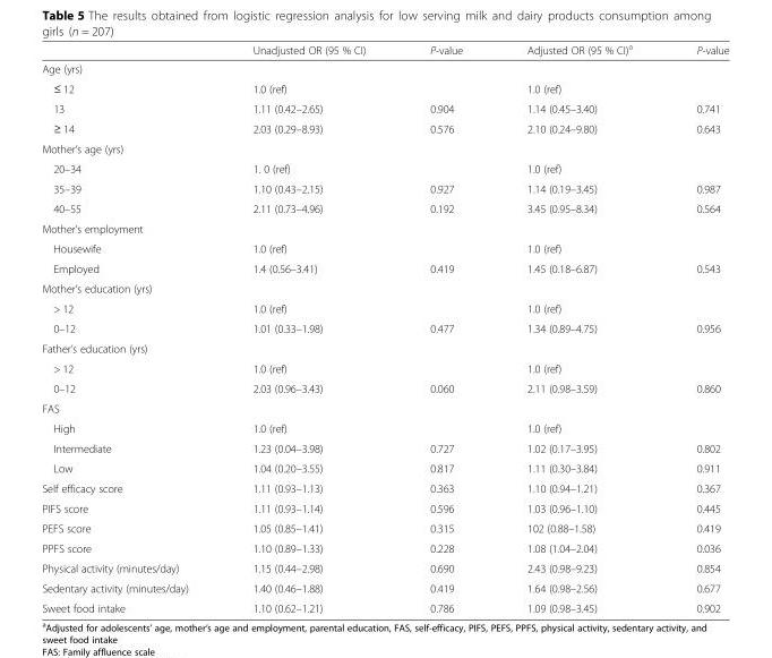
<table><thead><tr><td></td><td>Unadjusted OR (95 % CI)</td><td>P-value</td><td>Adjusted OR (95 % CI)<sup>a</sup></td><td>P-value</td></tr></thead><tbody><tr><td colspan="5">Age (yrs)</td></tr><tr><td>≤ 12</td><td>1.0 (ref)</td><td></td><td>1.0 (ref)</td><td></td></tr><tr><td>13</td><td>1.11 (0.42–2.65)</td><td>0.904</td><td>1.14 (0.45–3.40)</td><td>0.741</td></tr><tr><td>≥ 14</td><td>2.03 (0.29–8.93)</td><td>0.576</td><td>2.10 (0.24–9.80)</td><td>0.643</td></tr><tr><td colspan="5">Mother’s age (yrs)</td></tr><tr><td>20–34</td><td>1. 0 (ref)</td><td></td><td>1.0 (ref)</td><td></td></tr><tr><td>35–39</td><td>1.10 (0.43–2.15)</td><td>0.927</td><td>1.14 (0.19–3.45)</td><td>0.987</td></tr><tr><td>40–55</td><td>2.11 (0.73–4.96)</td><td>0.192</td><td>3.45 (0.95–8.34)</td><td>0.564</td></tr><tr><td colspan="5">Mother’s employment</td></tr><tr><td>Housewife</td><td>1.0 (ref)</td><td></td><td>1.0 (ref)</td><td></td></tr><tr><td>Employed</td><td>1.4 (0.56–3.41)</td><td>0.419</td><td>1.45 (0.18–6.87)</td><td>0.543</td></tr><tr><td colspan="5">Mother’s education (yrs)</td></tr><tr><td>&gt; 12</td><td>1.0 (ref)</td><td></td><td>1.0 (ref)</td><td></td></tr><tr><td>0–12</td><td>1.01 (0.33–1.98)</td><td>0.477</td><td>1.34 (0.89–4.75)</td><td>0.956</td></tr><tr><td colspan="5">Father’s education (yrs)</td></tr><tr><td>&gt; 12</td><td>1.0 (ref)</td><td></td><td>1.0 (ref)</td><td></td></tr><tr><td>0–12</td><td>2.03 (0.96–3.43)</td><td>0.060</td><td>2.11 (0.98–3.59)</td><td>0.860</td></tr><tr><td colspan="5">FAS</td></tr><tr><td>High</td><td>1.0 (ref)</td><td></td><td>1.0 (ref)</td><td></td></tr><tr><td>Intermediate</td><td>1.23 (0.04–3.98)</td><td>0.727</td><td>1.02 (0.17–3.95)</td><td>0.802</td></tr><tr><td>Low</td><td>1.04 (0.20–3.55)</td><td>0.817</td><td>1.11 (0.30–3.84)</td><td>0.911</td></tr><tr><td>Self efficacy score</td><td>1.11 (0.93–1.13)</td><td>0.363</td><td>1.10 (0.94–1.21)</td><td>0.367</td></tr><tr><td>PIFS score</td><td>1.11 (0.93–1.14)</td><td>0.596</td><td>1.03 (0.96–1.10)</td><td>0.445</td></tr><tr><td>PEFS score</td><td>1.05 (0.85–1.41)</td><td>0.315</td><td>102 (0.88–1.58)</td><td>0.419</td></tr><tr><td>PPFS score</td><td>1.10 (0.89–1.33)</td><td>0.228</td><td>1.08 (1.04–2.04)</td><td>0.036</td></tr><tr><td>Physical activity (minutes/day)</td><td>1.15 (0.44–2.98)</td><td>0.690</td><td>2.43 (0.98–9.23)</td><td>0.854</td></tr><tr><td>Sedentary activity (minutes/day)</td><td>1.40 (0.46–1.88)</td><td>0.419</td><td>1.64 (0.98–2.56)</td><td>0.677</td></tr><tr><td>Sweet food intake</td><td>1.10 (0.62–1.21)</td><td>0.786</td><td>1.09 (0.98–3.45)</td><td>0.902</td></tr></tbody></table>